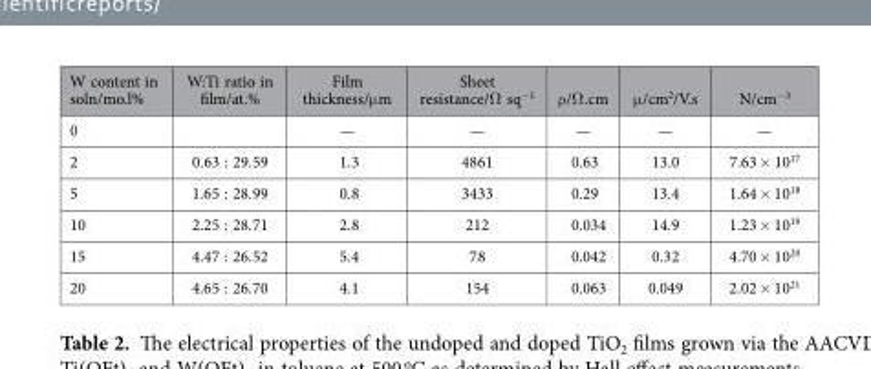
<table><thead><tr><td>W content in soln/mo.l%</td><td>W:Ti ratio in film/at.%</td><td>Film thickness/μ m</td><td>Sheet resistance/Ω sq<sup>−1</sup></td><td>ρ /Ω .cm</td><td>μ /cm<sup>2</sup>/V.s</td><td>N/cm<sup>−3</sup></td></tr></thead><tbody><tr><td>0</td><td></td><td>—</td><td>—</td><td>—</td><td>—</td><td>—</td></tr><tr><td>2</td><td>0.63 : 29.59</td><td>1.3</td><td>4861</td><td>0.63</td><td>13.0</td><td>7.63 × 10<sup>17</sup></td></tr><tr><td>5</td><td>1.65 : 28.99</td><td>0.8</td><td>3433</td><td>0.29</td><td>13.4</td><td>1.64 × 10<sup>18</sup></td></tr><tr><td>10</td><td>2.25 : 28.71</td><td>2.8</td><td>212</td><td>0.034</td><td>14.9</td><td>1.23 × 10<sup>19</sup></td></tr><tr><td>15</td><td>4.47 : 26.52</td><td>5.4</td><td>78</td><td>0.042</td><td>0.32</td><td>4.70 × 10<sup>20</sup></td></tr><tr><td>20</td><td>4.65 : 26.70</td><td>4.1</td><td>154</td><td>0.063</td><td>0.049</td><td>2.02 × 10<sup>21</sup></td></tr></tbody></table>